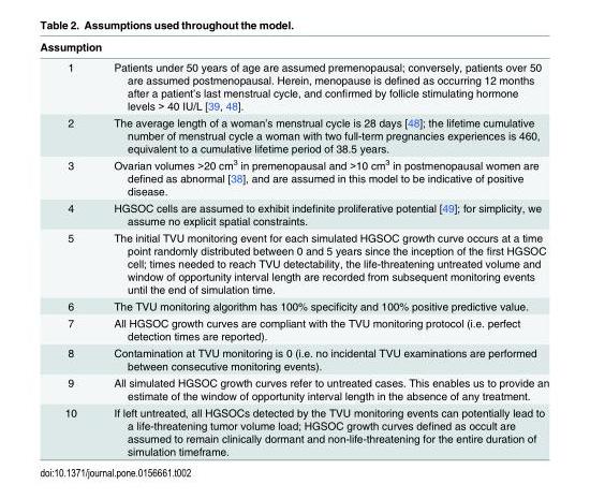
<table><thead><tr><td>Assumption</td><td></td></tr></thead><tbody><tr><td>1</td><td>Patients under 50 years of age are assumed premenopausal; conversely, patients over 50 are assumed postmenopausal. Herein, menopause is defined as occurring 12 months after a patient’s last menstrual cycle, and confirmed by follicle stimulating hormone levels &gt; 40 IU/L [39, 48].</td></tr><tr><td>2</td><td>The average length of a woman’s menstrual cycle is 28 days [48]; the lifetime cumulative number of menstrual cycle a woman with two full-term pregnancies experiences is 460, equivalent to a cumulative lifetime period of 38.5 years.</td></tr><tr><td>3</td><td>Ovarian volumes &gt;20 cm<sup>3</sup> in premenopausal and &gt;10 cm<sup>3</sup> in postmenopausal women are defined as abnormal [38], and are assumed in this model to be indicative of positive disease.</td></tr><tr><td>4</td><td>HGSOC cells are assumed to exhibit indefinite proliferative potential [49]; for simplicity, we assume no explicit spatial constraints.</td></tr><tr><td>5</td><td>The initial TVU monitoring event for each simulated HGSOC growth curve occurs at a time point randomly distributed between 0 and 5 years since the inception of the first HGSOC cell; times needed to reach TVU detectability, the life-threatening untreated volume and window of opportunity interval length are recorded from subsequent monitoring events until the end of simulation time.</td></tr><tr><td>6</td><td>The TVU monitoring algorithm has 100% specificity and 100% positive predictive value.</td></tr><tr><td>7</td><td>All HGSOC growth curves are compliant with the TVU monitoring protocol (i.e. perfect detection times are reported).</td></tr><tr><td>8</td><td>Contamination at TVU monitoring is 0 (i.e. no incidental TVU examinations are performed between consecutive monitoring events).</td></tr><tr><td>9</td><td>All simulated HGSOC growth curves refer to untreated cases. This enables us to provide an estimate of the window of opportunity interval length in the absence of any treatment.</td></tr><tr><td>10</td><td>If left untreated, all HGSOCs detected by the TVU monitoring events can potentially lead to a life-threatening tumor volume load; HGSOC growth curves defined as occult are assumed to remain clinically dormant and non-life-threatening for the entire duration of simulation timeframe.</td></tr></tbody></table>